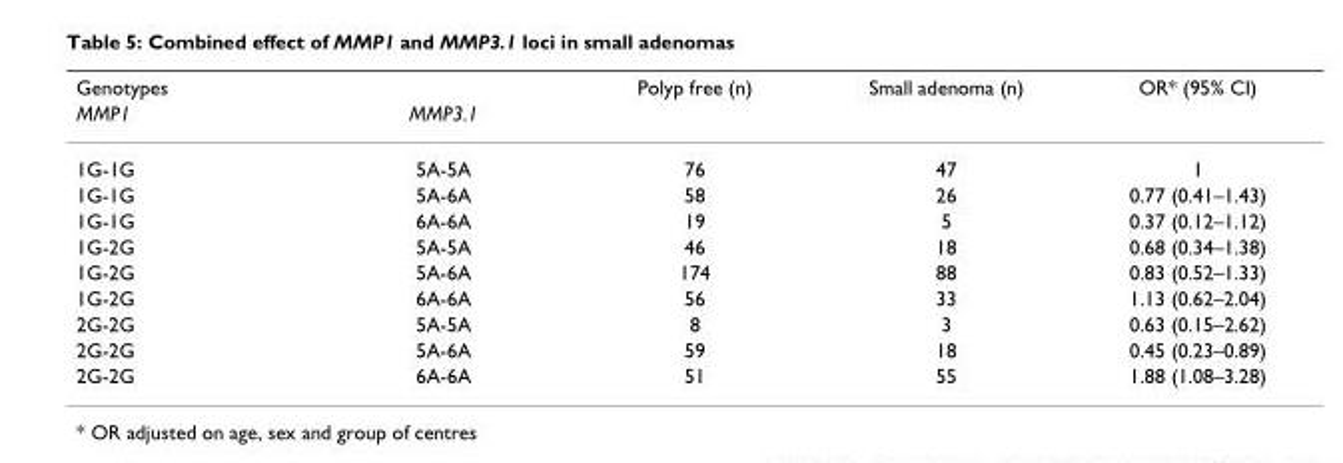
<table><thead><tr><td colspan="2">Genotypes</td><td rowspan="2">Polyp free (n)</td><td rowspan="2">Small adenoma (n)</td><td rowspan="2">OR* (95% CI)</td></tr><tr><td>MMP1</td><td>MMP3.1</td></tr></thead><tbody><tr><td>1G-1G</td><td>5A-5A</td><td>76</td><td>47</td><td>1</td></tr><tr><td>1G-1G</td><td>5A-6A</td><td>58</td><td>26</td><td>0.77 (0.41–1.43)</td></tr><tr><td>1G-1G</td><td>6A-6A</td><td>19</td><td>5</td><td>0.37 (0.12–1.12)</td></tr><tr><td>1G-2G</td><td>5A-5A</td><td>46</td><td>18</td><td>0.68 (0.34–1.38)</td></tr><tr><td>1G-2G</td><td>5A-6A</td><td>174</td><td>88</td><td>0.83 (0.52–1.33)</td></tr><tr><td>1G-2G</td><td>6A-6A</td><td>56</td><td>33</td><td>1.13 (0.62–2.04)</td></tr><tr><td>2G-2G</td><td>5A-5A</td><td>8</td><td>3</td><td>0.63 (0.15–2.62)</td></tr><tr><td>2G-2G</td><td>5A-6A</td><td>59</td><td>18</td><td>0.45 (0.23–0.89)</td></tr><tr><td>2G-2G</td><td>6A-6A</td><td>51</td><td>55</td><td>1.88 (1.08–3.28)</td></tr></tbody></table>